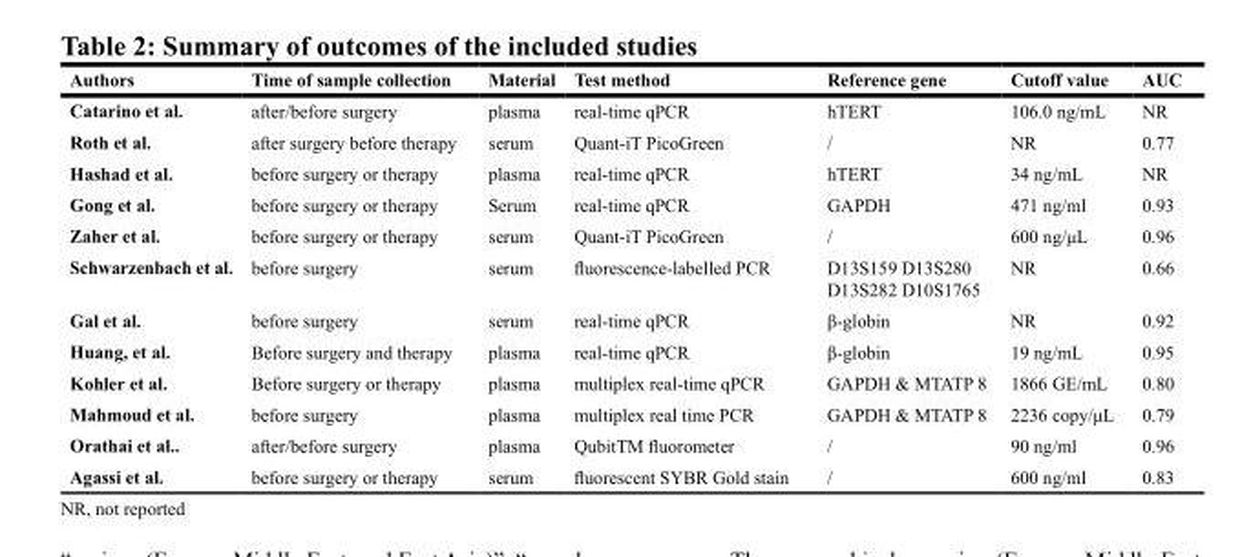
<table><thead><tr><td>Authors</td><td>Time of sample collection</td><td>Material</td><td>Test method</td><td>Reference gene</td><td>Cutoff value</td><td>AUC</td></tr></thead><tbody><tr><td>Catarino et al.</td><td>after/before surgery</td><td>plasma</td><td>real-time qPCR</td><td>hTERT</td><td>106.0 ng/mL</td><td>NR</td></tr><tr><td>Roth et al.</td><td>after surgery before therapy</td><td>serum</td><td>Quant-iT PicoGreen</td><td>/</td><td>NR</td><td>0.77</td></tr><tr><td>Hashad et al.</td><td>before surgery or therapy</td><td>plasma</td><td>real-time qPCR</td><td>hTERT</td><td>34 ng/mL</td><td>NR</td></tr><tr><td>Gong et al.</td><td>before surgery or therapy</td><td>Serum</td><td>real-time qPCR</td><td>GAPDH</td><td>471 ng/ml</td><td>0.93</td></tr><tr><td>Zaher et al.</td><td>before surgery or therapy</td><td>serum</td><td>Quant-iT PicoGreen</td><td>/</td><td>600 ng/μL</td><td>0.96</td></tr><tr><td>Schwarzenbach et al.</td><td>before surgery</td><td>serum</td><td>fluorescence-labelled PCR</td><td>D13S159 D13S280 D13S282 D10S1765</td><td>NR</td><td>0.66</td></tr><tr><td>Gal et al.</td><td>before surgery</td><td>serum</td><td>real-time qPCR</td><td>β-globin</td><td>NR</td><td>0.92</td></tr><tr><td>Huang, et al.</td><td>Before surgery and therapy</td><td>plasma</td><td>real-time qPCR</td><td>β-globin</td><td>19 ng/mL</td><td>0.95</td></tr><tr><td>Kohler et al.</td><td>Before surgery or therapy</td><td>plasma</td><td>multiplex real-time qPCR</td><td>GAPDH &amp; MTATP 8</td><td>1866 GE/mL</td><td>0.80</td></tr><tr><td>Mahmoud et al.</td><td>before surgery</td><td>plasma</td><td>multiplex real time PCR</td><td>GAPDH &amp; MTATP 8</td><td>2236 copy/μL</td><td>0.79</td></tr><tr><td>Orathai et al..</td><td>after/before surgery</td><td>plasma</td><td>QubitTM fluorometer</td><td>/</td><td>90 ng/ml</td><td>0.96</td></tr><tr><td>Agassi et al.</td><td>before surgery or therapy</td><td>serum</td><td>fluorescent SYBR Gold stain</td><td>/</td><td>600 ng/ml</td><td>0.83</td></tr></tbody></table>